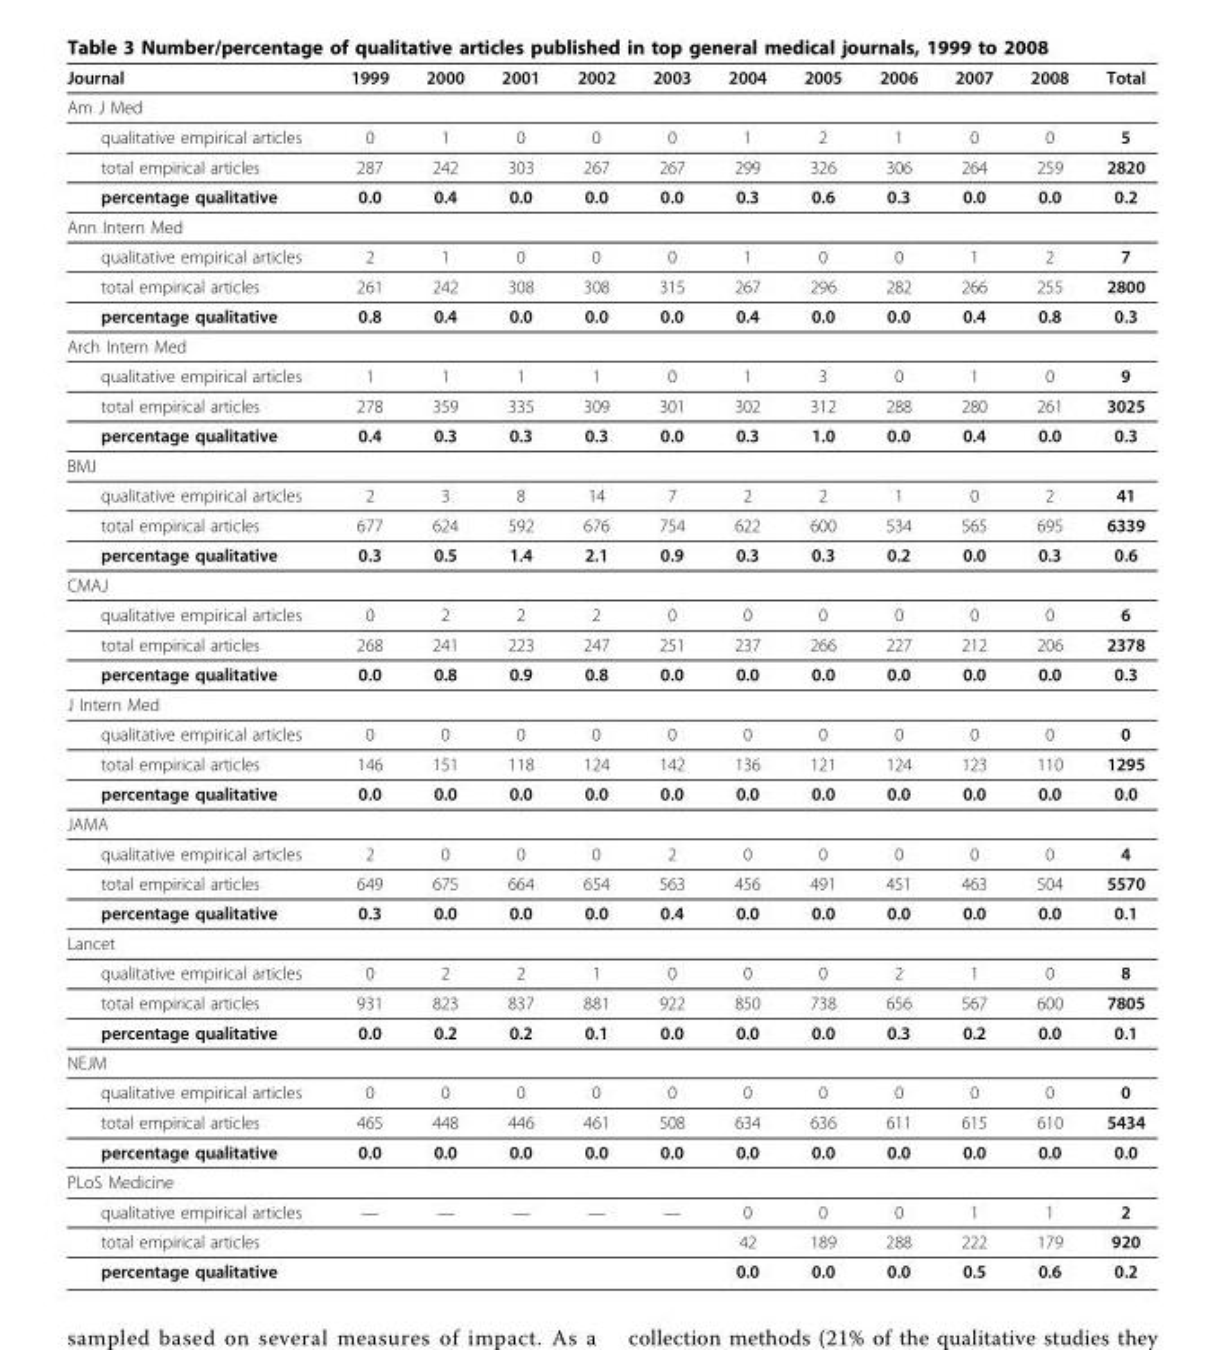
<table><thead><tr><td>Journal</td><td>1999</td><td>2000</td><td>2001</td><td>2002</td><td>2003</td><td>2004</td><td>2005</td><td>2006</td><td>2007</td><td>2008</td><td>Total</td></tr></thead><tbody><tr><td colspan="12">Am J Med</td></tr><tr><td>qualitative empirical articles</td><td>0</td><td>1</td><td>0</td><td>0</td><td>0</td><td>1</td><td>2</td><td>1</td><td>0</td><td>0</td><td>5</td></tr><tr><td>total empirical articles</td><td>287</td><td>242</td><td>303</td><td>267</td><td>267</td><td>299</td><td>326</td><td>306</td><td>264</td><td>259</td><td>2820</td></tr><tr><td>percentage qualitative</td><td>0.0</td><td>0.4</td><td>0.0</td><td>0.0</td><td>0.0</td><td>0.3</td><td>0.6</td><td>0.3</td><td>0.0</td><td>0.0</td><td>0.2</td></tr><tr><td colspan="12">Ann Intern Med</td></tr><tr><td>qualitative empirical articles</td><td>2</td><td>1</td><td>0</td><td>0</td><td>0</td><td>1</td><td>0</td><td>0</td><td>1</td><td>2</td><td>7</td></tr><tr><td>total empirical articles</td><td>261</td><td>242</td><td>308</td><td>308</td><td>315</td><td>267</td><td>296</td><td>282</td><td>266</td><td>255</td><td>2800</td></tr><tr><td>percentage qualitative</td><td>0.8</td><td>0.4</td><td>0.0</td><td>0.0</td><td>0.0</td><td>0.4</td><td>0.0</td><td>0.0</td><td>0.4</td><td>0.8</td><td>0.3</td></tr><tr><td colspan="12">Arch Intern Med</td></tr><tr><td>qualitative empirical articles</td><td>1</td><td>1</td><td>1</td><td>1</td><td>0</td><td>1</td><td>3</td><td>0</td><td>1</td><td>0</td><td>9</td></tr><tr><td>total empirical articles</td><td>278</td><td>359</td><td>335</td><td>309</td><td>301</td><td>302</td><td>312</td><td>288</td><td>280</td><td>261</td><td>3025</td></tr><tr><td>percentage qualitative</td><td>0.4</td><td>0.3</td><td>0.3</td><td>0.3</td><td>0.0</td><td>0.3</td><td>1.0</td><td>0.0</td><td>0.4</td><td>0.0</td><td>0.3</td></tr><tr><td colspan="12">BMJ</td></tr><tr><td>qualitative empirical articles</td><td>2</td><td>3</td><td>8</td><td>14</td><td>7</td><td>2</td><td>2</td><td>1</td><td>0</td><td>2</td><td>41</td></tr><tr><td>total empirical articles</td><td>677</td><td>624</td><td>592</td><td>676</td><td>754</td><td>622</td><td>600</td><td>534</td><td>565</td><td>695</td><td>6339</td></tr><tr><td>percentage qualitative</td><td>0.3</td><td>0.5</td><td>1.4</td><td>2.1</td><td>0.9</td><td>0.3</td><td>0.3</td><td>0.2</td><td>0.0</td><td>0.3</td><td>0.6</td></tr><tr><td colspan="12">CMAJ</td></tr><tr><td>qualitative empirical articles</td><td>0</td><td>2</td><td>2</td><td>2</td><td>0</td><td>0</td><td>0</td><td>0</td><td>0</td><td>0</td><td>6</td></tr><tr><td>total empirical articles</td><td>268</td><td>241</td><td>223</td><td>247</td><td>251</td><td>237</td><td>266</td><td>227</td><td>212</td><td>206</td><td>2378</td></tr><tr><td>percentage qualitative</td><td>0.0</td><td>0.8</td><td>0.9</td><td>0.8</td><td>0.0</td><td>0.0</td><td>0.0</td><td>0.0</td><td>0.0</td><td>0.0</td><td>0.3</td></tr><tr><td colspan="12">J Intern Med</td></tr><tr><td>qualitative empirical articles</td><td>0</td><td>0</td><td>0</td><td>0</td><td>0</td><td>0</td><td>0</td><td>0</td><td>0</td><td>0</td><td>0</td></tr><tr><td>total empirical articles</td><td>146</td><td>151</td><td>118</td><td>124</td><td>142</td><td>136</td><td>121</td><td>124</td><td>123</td><td>110</td><td>1295</td></tr><tr><td>percentage qualitative</td><td>0.0</td><td>0.0</td><td>0.0</td><td>0.0</td><td>0.0</td><td>0.0</td><td>0.0</td><td>0.0</td><td>0.0</td><td>0.0</td><td>0.0</td></tr><tr><td colspan="12">JAMA</td></tr><tr><td>qualitative empirical articles</td><td>2</td><td>0</td><td>0</td><td>0</td><td>2</td><td>0</td><td>0</td><td>0</td><td>0</td><td>0</td><td>4</td></tr><tr><td>total empirical articles</td><td>649</td><td>675</td><td>664</td><td>654</td><td>563</td><td>456</td><td>491</td><td>451</td><td>463</td><td>504</td><td>5570</td></tr><tr><td>percentage qualitative</td><td>0.3</td><td>0.0</td><td>0.0</td><td>0.0</td><td>0.4</td><td>0.0</td><td>0.0</td><td>0.0</td><td>0.0</td><td>0.0</td><td>0.1</td></tr><tr><td colspan="12">Lancet</td></tr><tr><td>qualitative empirical articles</td><td>0</td><td>2</td><td>2</td><td>1</td><td>0</td><td>0</td><td>0</td><td>2</td><td>1</td><td>0</td><td>8</td></tr><tr><td>total empirical articles</td><td>931</td><td>823</td><td>837</td><td>881</td><td>922</td><td>850</td><td>738</td><td>656</td><td>567</td><td>600</td><td>7805</td></tr><tr><td>percentage qualitative</td><td>0.0</td><td>0.2</td><td>0.2</td><td>0.1</td><td>0.0</td><td>0.0</td><td>0.0</td><td>0.3</td><td>0.2</td><td>0.0</td><td>0.1</td></tr><tr><td colspan="12">NEJM</td></tr><tr><td>qualitative empirical articles</td><td>0</td><td>0</td><td>0</td><td>0</td><td>0</td><td>0</td><td>0</td><td>0</td><td>0</td><td>0</td><td>0</td></tr><tr><td>total empirical articles</td><td>465</td><td>448</td><td>446</td><td>461</td><td>508</td><td>634</td><td>636</td><td>611</td><td>615</td><td>610</td><td>5434</td></tr><tr><td>percentage qualitative</td><td>0.0</td><td>0.0</td><td>0.0</td><td>0.0</td><td>0.0</td><td>0.0</td><td>0.0</td><td>0.0</td><td>0.0</td><td>0.0</td><td>0.0</td></tr><tr><td colspan="12">PLoS Medicine</td></tr><tr><td>qualitative empirical articles</td><td>—</td><td>—</td><td>—</td><td>—</td><td>—</td><td>0</td><td>0</td><td>0</td><td>1</td><td>1</td><td>2</td></tr><tr><td>total empirical articles</td><td></td><td></td><td></td><td></td><td></td><td>42</td><td>189</td><td>288</td><td>222</td><td>179</td><td>920</td></tr><tr><td>percentage qualitative</td><td></td><td></td><td></td><td></td><td></td><td>0.0</td><td>0.0</td><td>0.0</td><td>0.5</td><td>0.6</td><td>0.2</td></tr></tbody></table>